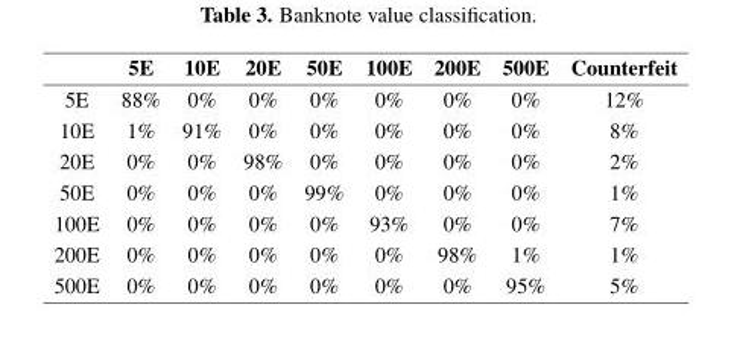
<table><thead><tr><td></td><td>5E</td><td>10E</td><td>20E</td><td>50E</td><td>100E</td><td>200E</td><td>500E</td><td>Counterfeit</td></tr></thead><tbody><tr><td>5E</td><td>88%</td><td>0%</td><td>0%</td><td>0%</td><td>0%</td><td>0%</td><td>0%</td><td>12%</td></tr><tr><td>10E</td><td>1%</td><td>91%</td><td>0%</td><td>0%</td><td>0%</td><td>0%</td><td>0%</td><td>8%</td></tr><tr><td>20E</td><td>0%</td><td>0%</td><td>98%</td><td>0%</td><td>0%</td><td>0%</td><td>0%</td><td>2%</td></tr><tr><td>50E</td><td>0%</td><td>0%</td><td>0%</td><td>99%</td><td>0%</td><td>0%</td><td>0%</td><td>1%</td></tr><tr><td>100E</td><td>0%</td><td>0%</td><td>0%</td><td>0%</td><td>93%</td><td>0%</td><td>0%</td><td>7%</td></tr><tr><td>200E</td><td>0%</td><td>0%</td><td>0%</td><td>0%</td><td>0%</td><td>98%</td><td>1%</td><td>1%</td></tr><tr><td>500E</td><td>0%</td><td>0%</td><td>0%</td><td>0%</td><td>0%</td><td>0%</td><td>95%</td><td>5%</td></tr></tbody></table>